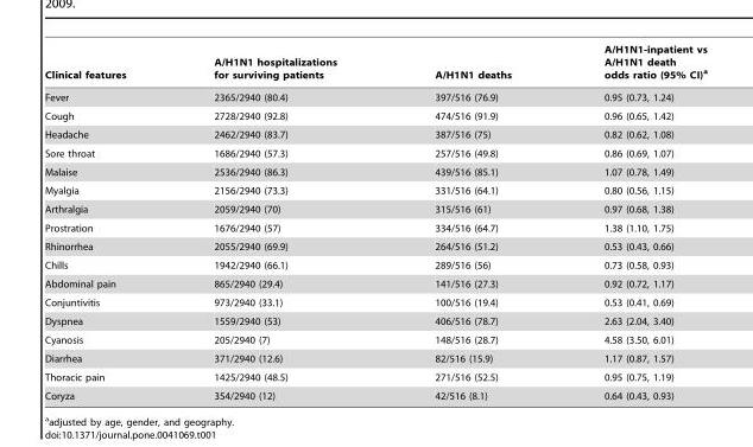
<table><thead><tr><td>Clinical features</td><td>A/H1N1 hospitalizations for surviving patients</td><td>A/H1N1 deaths</td><td>A/H1N1-inpatient vs A/H1N1 death odds ratio (95% CI)<sup>a</sup></td></tr></thead><tbody><tr><td>Fever</td><td>2365/2940 (80.4)</td><td>397/516 (76.9)</td><td>0.95 (0.73, 1.24)</td></tr><tr><td>Cough</td><td>2728/2940 (92.8)</td><td>474/516 (91.9)</td><td>0.96 (0.65, 1.42)</td></tr><tr><td>Headache</td><td>2462/2940 (83.7)</td><td>387/516 (75)</td><td>0.82 (0.62, 1.08)</td></tr><tr><td>Sore throat</td><td>1686/2940 (57.3)</td><td>257/516 (49.8)</td><td>0.86 (0.69, 1.07)</td></tr><tr><td>Malaise</td><td>2536/2940 (86.3)</td><td>439/516 (85.1)</td><td>1.07 (0.78, 1.49)</td></tr><tr><td>Myalgia</td><td>2156/2940 (73.3)</td><td>331/516 (64.1)</td><td>0.80 (0.56, 1.15)</td></tr><tr><td>Arthralgia</td><td>2059/2940 (70)</td><td>315/516 (61)</td><td>0.97 (0.68, 1.38)</td></tr><tr><td>Prostration</td><td>1676/2940 (57)</td><td>334/516 (64.7)</td><td>1.38 (1.10, 1.75)</td></tr><tr><td>Rhinorrhea</td><td>2055/2940 (69.9)</td><td>264/516 (51.2)</td><td>0.53 (0.43, 0.66)</td></tr><tr><td>Chills</td><td>1942/2940 (66.1)</td><td>289/516 (56)</td><td>0.73 (0.58, 0.93)</td></tr><tr><td>Abdominal pain</td><td>865/2940 (29.4)</td><td>141/516 (27.3)</td><td>0.92 (0.72, 1.17)</td></tr><tr><td>Conjuntivitis</td><td>973/2940 (33.1)</td><td>100/516 (19.4)</td><td>0.53 (0.41, 0.69)</td></tr><tr><td>Dyspnea</td><td>1559/2940 (53)</td><td>406/516 (78.7)</td><td>2.63 (2.04, 3.40)</td></tr><tr><td>Cyanosis</td><td>205/2940 (7)</td><td>148/516 (28.7)</td><td>4.58 (3.50, 6.01)</td></tr><tr><td>Diarrhea</td><td>371/2940 (12.6)</td><td>82/516 (15.9)</td><td>1.17 (0.87, 1.57)</td></tr><tr><td>Thoracic pain</td><td>1425/2940 (48.5)</td><td>271/516 (52.5)</td><td>0.95 (0.75, 1.19)</td></tr><tr><td>Coryza</td><td>354/2940 (12)</td><td>42/516 (8.1)</td><td>0.64 (0.43, 0.93)</td></tr></tbody></table>